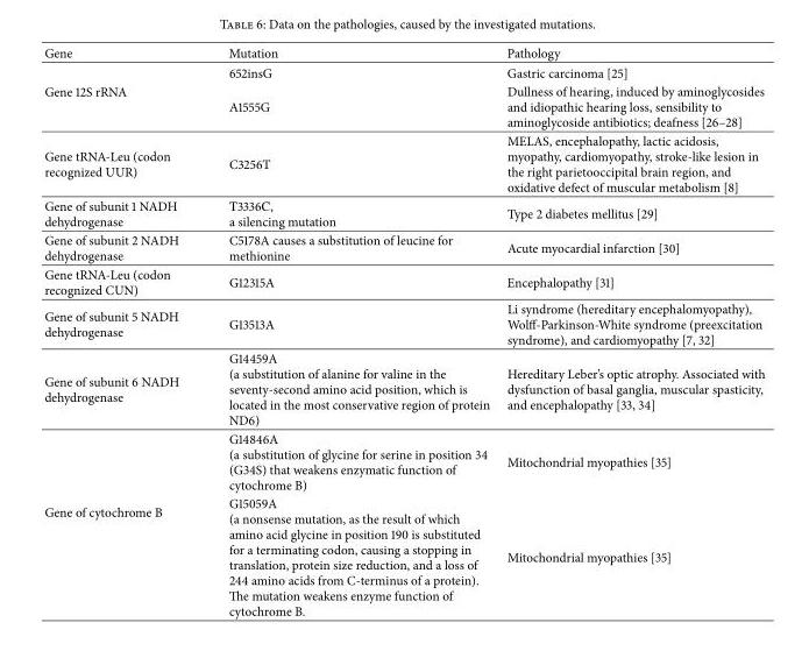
<table><thead><tr><td>Gene</td><td>Mutation</td><td>Pathology</td></tr></thead><tbody><tr><td rowspan="2">Gene 12S rRNA</td><td>652insG</td><td>Gastric carcinoma [25]</td></tr><tr><td>A1555G</td><td>Dullness of hearing, induced by aminoglycosides and idiopathic hearing loss, sensibility to aminoglycoside antibiotics; deafness [26–28]</td></tr><tr><td>Gene tRNA-Leu (codon recognized UUR)</td><td>C3256T</td><td>MELAS, encephalopathy, lactic acidosis, myopathy, cardiomyopathy, stroke-like lesion in the right parietooccipital brain region, and oxidative defect of muscular metabolism [8]</td></tr><tr><td>Gene of subunit 1 NADH dehydrogenase</td><td>f3336b, a silencing mutation</td><td>Type 2 diabetes mellitus [29]</td></tr><tr><td>Gene of subunit 2 NADH dehydrogenase</td><td>C5178A causes a substitution of leucine for methionine</td><td>Acute myocardial infarction [30]</td></tr><tr><td>Gene tRNA-Leu (codon recognized CUN)</td><td>G12315A</td><td>Encephalopathy [31]</td></tr><tr><td>Gene of subunit 5 NADH dehydrogenase</td><td>G13513A</td><td>Li syndrome (hereditary encephalomyopathy), Wolff-Parkinson-White syndrome (preexcitation syndrome), and cardiomyopathy [7, 32]</td></tr><tr><td>Gene of subunit 6 NADH dehydrogenase</td><td>G14459A (a substitution of alanine for valine in the seventy-second amino acid position, which is located in the most conservative region of protein ND6)</td><td>Hereditary Leber’s optic atrophy. Associated with dysfunction of basal ganglia, muscular spasticity, and encephalopathy [33, 34]</td></tr><tr><td rowspan="2">Gene of cytochrome B</td><td>G14846A (a substitution of glycine for serine in position 34 (G34S) that weakens enzymatic function of cytochrome B)</td><td>Mitochondrial myopathies [35]</td></tr><tr><td>G15059A (a nonsense mutation, as the result of which amino acid glycine in position 190 is substituted for a terminating codon, causing a stopping in translation, protein size reduction, and a loss of 244 amino acids from C-terminus of a protein). The mutation weakens enzyme function of cytochrome B.</td><td>Mitochondrial myopathies [35]</td></tr></tbody></table>